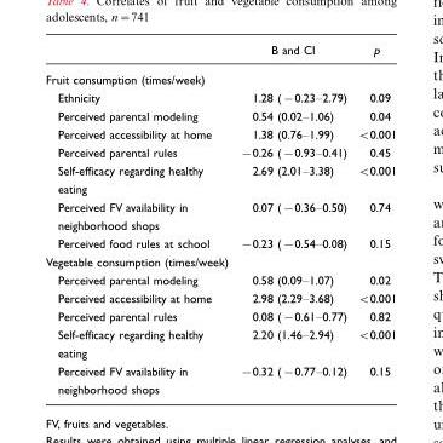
<table><thead><tr><td></td><td>B and CI</td><td>p</td></tr></thead><tbody><tr><td colspan="3">Fruit consumption (times/week)</td></tr><tr><td>Ethnicity</td><td>1.28 (−0.23–2.79)</td><td>0.09</td></tr><tr><td>Perceived parental modeling</td><td>0.54 (0.02–1.06)</td><td>0.04</td></tr><tr><td>Perceived accessibility at home</td><td>1.38 (0.76–1.99)</td><td>&lt;0.001</td></tr><tr><td>Perceived parental rules</td><td>−0.26 (−0.93–0.41)</td><td>0.45</td></tr><tr><td>Self-efficacy regarding healthy eating</td><td>2.69 (2.01–3.38)</td><td>&lt;0.001</td></tr><tr><td>Perceived FV availability in neighborhood shops</td><td>0.07 (−0.36–0.50)</td><td>0.74</td></tr><tr><td>Perceived food rules at school</td><td>−0.23 (−0.54–0.08)</td><td>0.15</td></tr><tr><td colspan="3">Vegetable consumption (times/week)</td></tr><tr><td>Perceived parental modeling</td><td>0.58 (0.09–1.07)</td><td>0.02</td></tr><tr><td>Perceived accessibility at home</td><td>2.98 (2.29–3.68)</td><td>&lt;0.001</td></tr><tr><td>Perceived parental rules</td><td>0.08 (−0.61–0.77)</td><td>0.82</td></tr><tr><td>Self-efficacy regarding healthy eating</td><td>2.20 (1.46–2.94)</td><td>&lt;0.001</td></tr><tr><td>Perceived FV availability in neighborhood shops</td><td>−0.32 (−0.77–0.12)</td><td>0.15</td></tr></tbody></table>